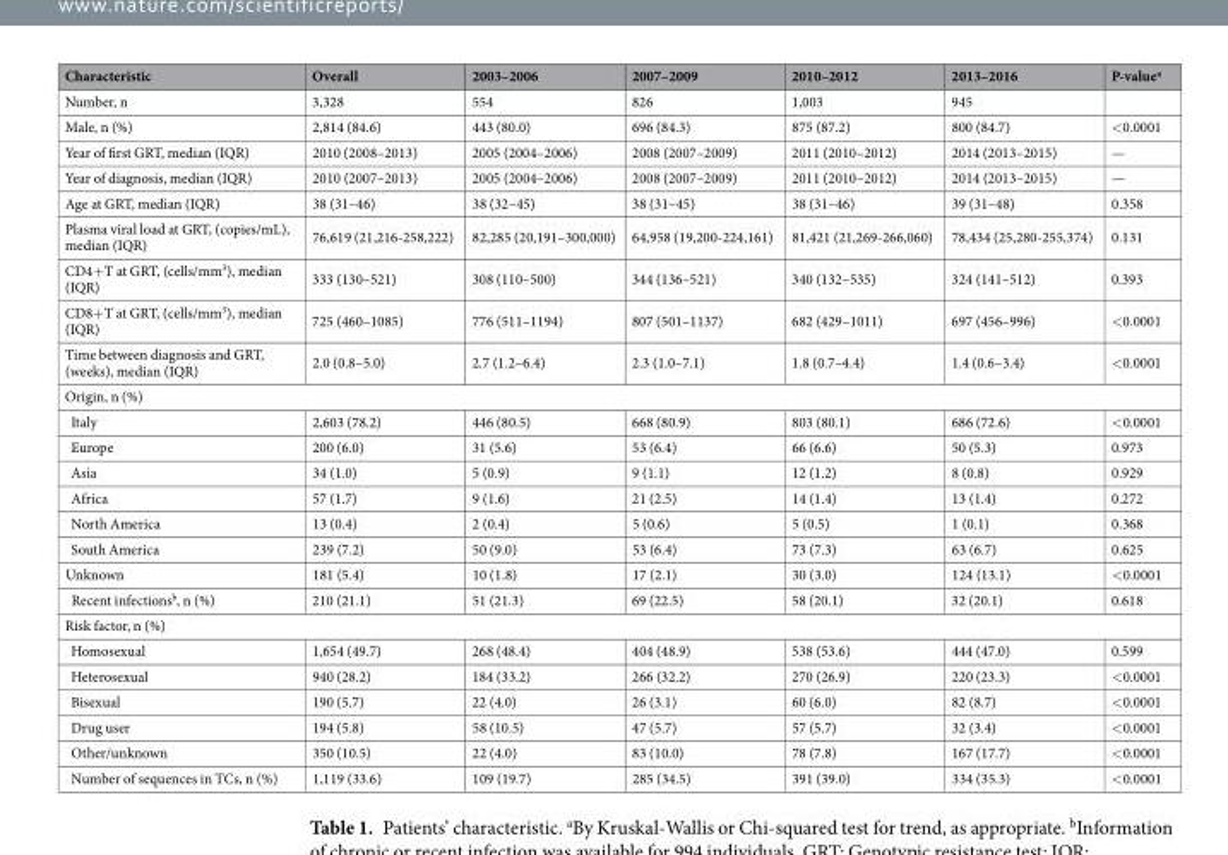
<table><thead><tr><td>Characteristic</td><td>Overall</td><td>2003–2006</td><td>2007–2009</td><td>2010–2012</td><td>2013–2016</td><td>P-value<sup>a</sup></td></tr></thead><tbody><tr><td>Number, n</td><td>3,328</td><td>554</td><td>826</td><td>1,003</td><td>945</td><td></td></tr><tr><td>Male, n (%)</td><td>2,814 (84.6)</td><td>443 (80.0)</td><td>696 (84.3)</td><td>875 (87.2)</td><td>800 (84.7)</td><td>&lt;0.0001</td></tr><tr><td>Year of first GRT, median (IQR)</td><td>2010 (2008–2013)</td><td>2005 (2004–2006)</td><td>2008 (2007–2009)</td><td>2011 (2010–2012)</td><td>2014 (2013–2015)</td><td>—</td></tr><tr><td>Year of diagnosis, median (IQR)</td><td>2010 (2007–2013)</td><td>2005 (2004–2006)</td><td>2008 (2007–2009)</td><td>2011 (2010–2012)</td><td>2014 (2013–2015)</td><td>—</td></tr><tr><td>Age at GRT, median (IQR)</td><td>38 (31–46)</td><td>38 (32–45)</td><td>38 (31–45)</td><td>38 (31–46)</td><td>39 (31–48)</td><td>0.358</td></tr><tr><td>Plasma viral load at GRT, (copies/mL), median (IQR)</td><td>76,619 (21,216-258,222)</td><td>82,285 (20,191–300,000)</td><td>64,958 (19,200-224,161)</td><td>81,421 (21,269-266,060)</td><td>78,434 (25,280-255,374)</td><td>0.131</td></tr><tr><td>CD4+T at GRT, (cells/mm<sup>3</sup>), median (IQR)</td><td>333 (130–521)</td><td>308 (110–500)</td><td>344 (136–521)</td><td>340 (132–535)</td><td>324 (141–512)</td><td>0.393</td></tr><tr><td>CD8+T at GRT, (cells/mm<sup>3</sup>), median (IQR)</td><td>725 (460–1085)</td><td>776 (511–1194)</td><td>807 (501–1137)</td><td>682 (429–1011)</td><td>697 (456–996)</td><td>&lt;0.0001</td></tr><tr><td>Time between diagnosis and GRT, (weeks), median (IQR)</td><td>2.0 (0.8–5.0)</td><td>2.7 (1.2–6.4)</td><td>2.3 (1.0–7.1)</td><td>1.8 (0.7–4.4)</td><td>1.4 (0.6–3.4)</td><td>&lt;0.0001</td></tr><tr><td colspan="7">Origin, n (%)</td></tr><tr><td>Italy</td><td>2,603 (78.2)</td><td>446 (80.5)</td><td>668 (80.9)</td><td>803 (80.1)</td><td>686 (72.6)</td><td>&lt;0.0001</td></tr><tr><td>Europe</td><td>200 (6.0)</td><td>31 (5.6)</td><td>53 (6.4)</td><td>66 (6.6)</td><td>50 (5.3)</td><td>0.973</td></tr><tr><td>Asia</td><td>34 (1.0)</td><td>5 (0.9)</td><td>9 (1.1)</td><td>12 (1.2)</td><td>8 (0.8)</td><td>0.929</td></tr><tr><td>Africa</td><td>57 (1.7)</td><td>9 (1.6)</td><td>21 (2.5)</td><td>14 (1.4)</td><td>13 (1.4)</td><td>0.272</td></tr><tr><td>North America</td><td>13 (0.4)</td><td>2 (0.4)</td><td>5 (0.6)</td><td>5 (0.5)</td><td>1 (0.1)</td><td>0.368</td></tr><tr><td>South America</td><td>239 (7.2)</td><td>50 (9.0)</td><td>53 (6.4)</td><td>73 (7.3)</td><td>63 (6.7)</td><td>0.625</td></tr><tr><td>Unknown</td><td>181 (5.4)</td><td>10 (1.8)</td><td>17 (2.1)</td><td>30 (3.0)</td><td>124 (13.1)</td><td>&lt;0.0001</td></tr><tr><td>Recent infections<sup>b</sup>, n (%)</td><td>210 (21.1)</td><td>51 (21.3)</td><td>69 (22.5)</td><td>58 (20.1)</td><td>32 (20.1)</td><td>0.618</td></tr><tr><td colspan="7">Risk factor, n (%)</td></tr><tr><td>Homosexual</td><td>1,654 (49.7)</td><td>268 (48.4)</td><td>404 (48.9)</td><td>538 (53.6)</td><td>444 (47.0)</td><td>0.599</td></tr><tr><td>Heterosexual</td><td>940 (28.2)</td><td>184 (33.2)</td><td>266 (32.2)</td><td>270 (26.9)</td><td>220 (23.3)</td><td>&lt;0.0001</td></tr><tr><td>Bisexual</td><td>190 (5.7)</td><td>22 (4.0)</td><td>26 (3.1)</td><td>60 (6.0)</td><td>82 (8.7)</td><td>&lt;0.0001</td></tr><tr><td>Drug user</td><td>194 (5.8)</td><td>58 (10.5)</td><td>47 (5.7)</td><td>57 (5.7)</td><td>32 (3.4)</td><td>&lt;0.0001</td></tr><tr><td>Other/unknown</td><td>350 (10.5)</td><td>22 (4.0)</td><td>83 (10.0)</td><td>78 (7.8)</td><td>167 (17.7)</td><td>&lt;0.0001</td></tr><tr><td>Number of sequences in TCs, n (%)</td><td>1,119 (33.6)</td><td>109 (19.7)</td><td>285 (34.5)</td><td>391 (39.0)</td><td>334 (35.3)</td><td>&lt;0.0001</td></tr></tbody></table>